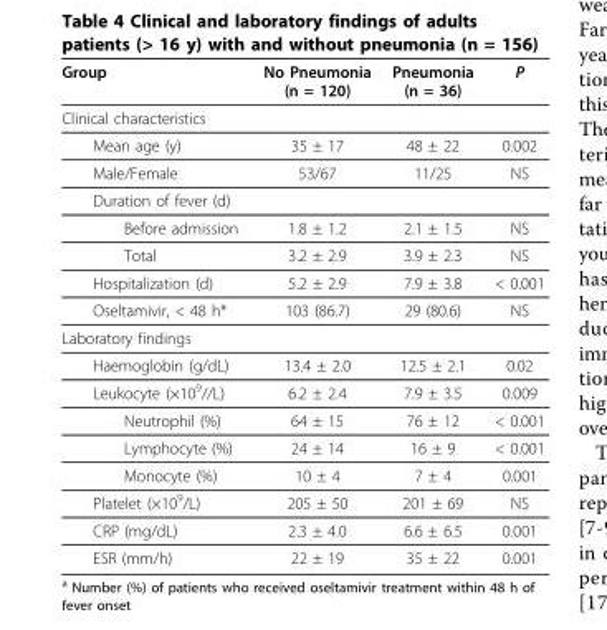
<table><thead><tr><td>Group</td><td>No Pneumonia (n = 120)</td><td>Pneumonia (n = 36)</td><td>P</td></tr></thead><tbody><tr><td colspan="4">Clinical characteristics</td></tr><tr><td>Mean age (y)</td><td>35 ± 17</td><td>48 ± 22</td><td>0.002</td></tr><tr><td>Male/Female</td><td>53/67</td><td>11/25</td><td>NS</td></tr><tr><td colspan="4">Duration of fever (d)</td></tr><tr><td>Before admission</td><td>1.8 ± 1.2</td><td>2.1 ± 1.5</td><td>NS</td></tr><tr><td>Total</td><td>3.2 ± 2.9</td><td>3.9 ± 2.3</td><td>NS</td></tr><tr><td>Hospitalization (d)</td><td>5.2 ± 2.9</td><td>7.9 ± 3.8</td><td>&lt; 0.001</td></tr><tr><td>Oseltamivir, &lt; 48 h*</td><td>103 (86.7)</td><td>29 (80.6)</td><td>NS</td></tr><tr><td colspan="4">Laboratory findings</td></tr><tr><td>Haemoglobin (g/dL)</td><td>13.4 ± 2.0</td><td>12.5 ± 2.1</td><td>0.02</td></tr><tr><td>Leukocyte (×10<sup>9</sup>//L)</td><td>6.2 ± 2.4</td><td>7.9 ± 3.5</td><td>0.009</td></tr><tr><td>Neutrophil (%)</td><td>64 ± 15</td><td>76 ± 12</td><td>&lt; 0.001</td></tr><tr><td>Lymphocyte (%)</td><td>24 ± 14</td><td>16 ± 9</td><td>&lt; 0.001</td></tr><tr><td>Monocyte (%)</td><td>10 ± 4</td><td>7 ± 4</td><td>0.001</td></tr><tr><td>Platelet (×10<sup>9</sup>/L)</td><td>205 ± 50</td><td>201 ± 69</td><td>NS</td></tr><tr><td>CRP (mg/dL)</td><td>2.3 ± 4.0</td><td>6.6 ± 6.5</td><td>0.001</td></tr><tr><td>ESR (mm/h)</td><td>22 ± 19</td><td>35 ± 22</td><td>0.001</td></tr></tbody></table>